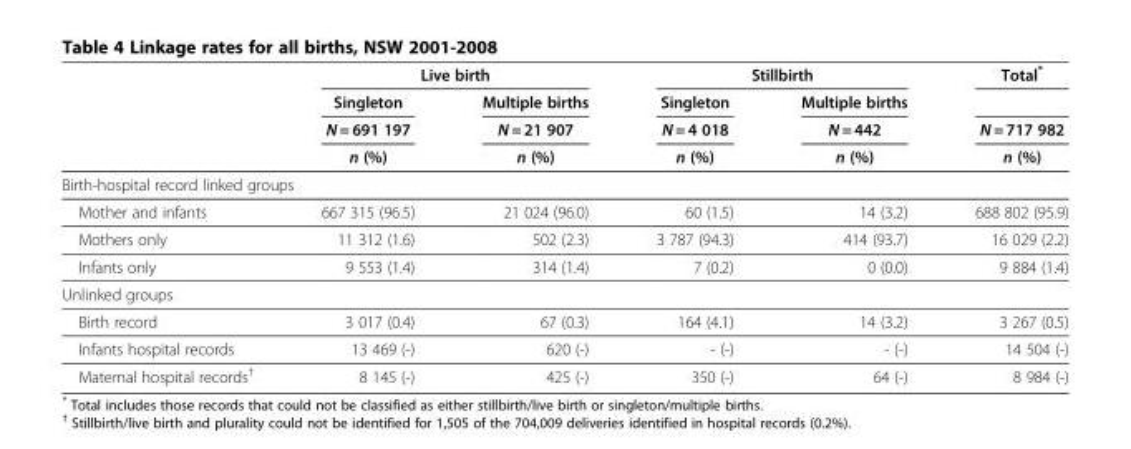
<table><thead><tr><td rowspan="4"></td><td colspan="2">Live birth</td><td colspan="2">Stillbirth</td><td rowspan="4">Total* N = 717 982 n (%)</td></tr><tr><td rowspan="3">Singleton N = 691 197 n (%)</td><td rowspan="3">Multiple births N = 21 907 n (%)</td><td rowspan="3">Singleton N = 4 018 n (%)</td><td rowspan="3">Multiple births N = 442 n (%)</td></tr><tr></tr><tr></tr></thead><tbody><tr><td colspan="6">Birth-hospital record linked groups</td></tr><tr><td>Mother and infants</td><td>667 315 (96.5)</td><td>21 024 (96.0)</td><td>60 (1.5)</td><td>14 (3.2)</td><td>688 802 (95.9)</td></tr><tr><td>Mothers only</td><td>11 312 (1.6)</td><td>502 (2.3)</td><td>3 787 (94.3)</td><td>414 (93.7)</td><td>16 029 (2.2)</td></tr><tr><td>Infants only</td><td>9 553 (1.4)</td><td>314 (1.4)</td><td>7 (0.2)</td><td>0 (0.0)</td><td>9 884 (1.4)</td></tr><tr><td colspan="6">Unlinked groups</td></tr><tr><td>Birth record</td><td>3 017 (0.4)</td><td>67 (0.3)</td><td>164 (4.1)</td><td>14 (3.2)</td><td>3 267 (0.5)</td></tr><tr><td>Infants hospital records</td><td>13 469 (-)</td><td>620 (-)</td><td>- (-)</td><td>- (-)</td><td>14 504 (-)</td></tr><tr><td>Maternal hospital records<sup>†</sup></td><td>8 145 (-)</td><td>425 (-)</td><td>350 (-)</td><td>64 (-)</td><td>8 984 (-)</td></tr></tbody></table>